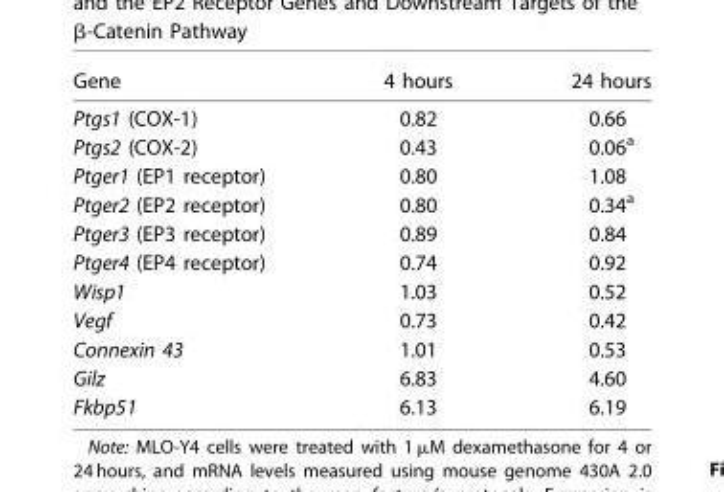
<table><thead><tr><td>Gene</td><td>4 hours</td><td>24 hours</td></tr></thead><tbody><tr><td>Ptgs1 (COX-1)</td><td>0.82</td><td>0.66</td></tr><tr><td>Ptgs2 (COX-2)</td><td>0.43</td><td>0.06<sup>a</sup></td></tr><tr><td>Ptger1 (EP1 receptor)</td><td>0.80</td><td>1.08</td></tr><tr><td>Ptger2 (EP2 receptor)</td><td>0.80</td><td>0.34<sup>a</sup></td></tr><tr><td>Ptger3 (EP3 receptor)</td><td>0.89</td><td>0.84</td></tr><tr><td>Ptger4 (EP4 receptor)</td><td>0.74</td><td>0.92</td></tr><tr><td>Wisp1</td><td>1.03</td><td>0.52</td></tr><tr><td>Vegf</td><td>0.73</td><td>0.42</td></tr><tr><td>Connexin 43</td><td>1.01</td><td>0.53</td></tr><tr><td>Gilz</td><td>6.83</td><td>4.60</td></tr><tr><td>Fkbp51</td><td>6.13</td><td>6.19</td></tr></tbody></table>